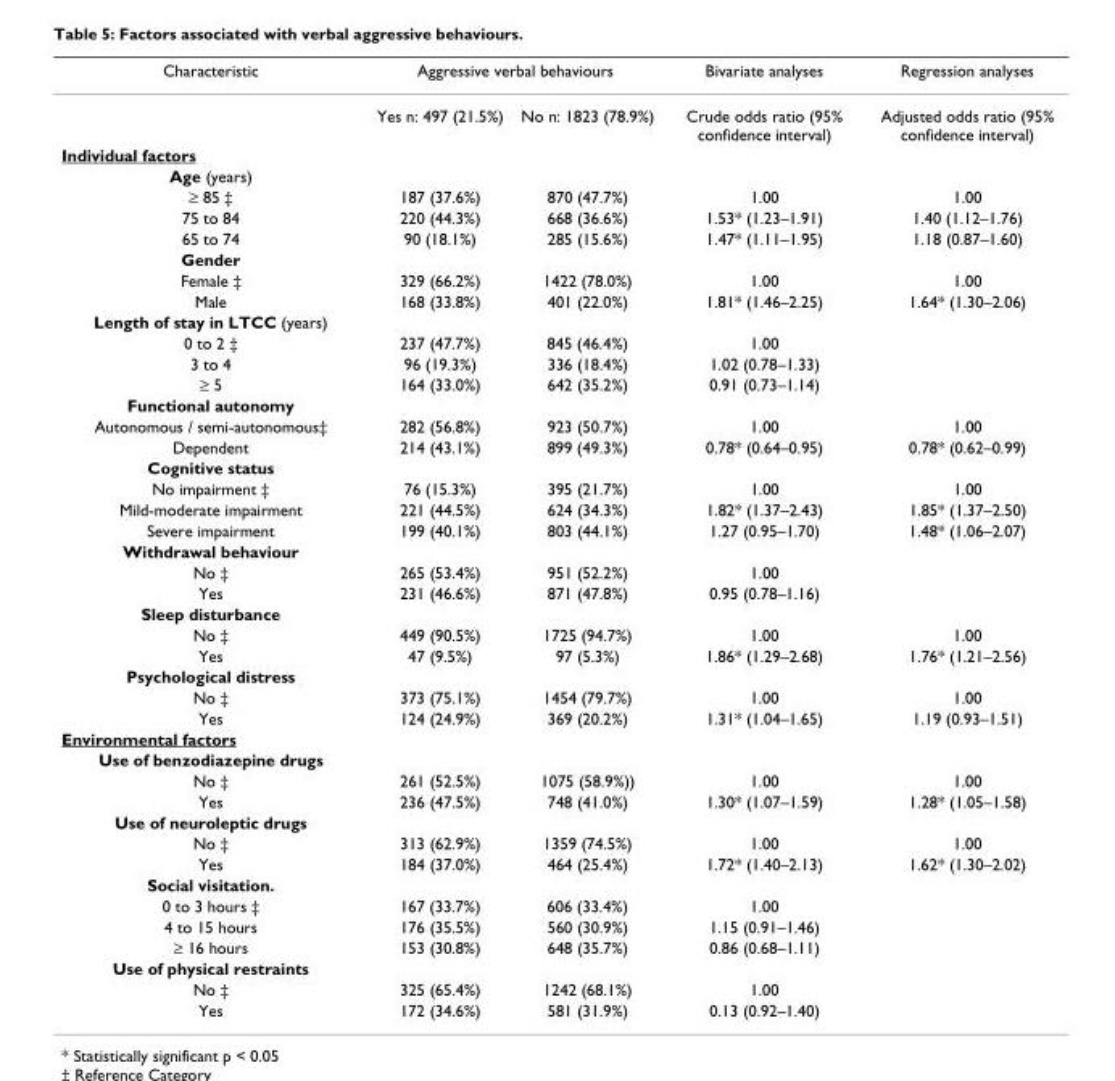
<table><thead><tr><td rowspan="2">Characteristic</td><td colspan="2">Aggressive verbal behaviours</td><td rowspan="2">Bivariate analyses Crude odds ratio (95% confidence interval)</td><td rowspan="2">Regression analyses Adjusted odds ratio (95% confidence interval)</td></tr><tr><td>Yes n: 497 (21.5%)</td><td>No n: 1823 (78.9%)</td></tr></thead><tbody><tr><td colspan="5">Individual factors</td></tr><tr><td colspan="5">Age (years)</td></tr><tr><td>≥ 85 ‡</td><td>187 (37.6%)</td><td>870 (47.7%)</td><td>1.00</td><td>1.00</td></tr><tr><td>75 to 84</td><td>220 (44.3%)</td><td>668 (36.6%)</td><td>1.53* (1.23–1.91)</td><td>1.40 (1.12–1.76)</td></tr><tr><td>65 to 74</td><td>90 (18.1%)</td><td>285 (15.6%)</td><td>1.47* (1.11–1.95)</td><td>1.18 (0.87–1.60)</td></tr><tr><td colspan="5">Gender</td></tr><tr><td>Female ‡</td><td>329 (66.2%)</td><td>1422 (78.0%)</td><td>1.00</td><td>1.00</td></tr><tr><td>Male</td><td>168 (33.8%)</td><td>401 (22.0%)</td><td>1.81* (1.46–2.25)</td><td>1.64* (1.30–2.06)</td></tr><tr><td colspan="5">Length of stay in LTCC (years)</td></tr><tr><td>0 to 2 ‡</td><td>237 (47.7%)</td><td>845 (46.4%)</td><td>1.00</td><td></td></tr><tr><td>3 to 4</td><td>96 (19.3%)</td><td>336 (18.4%)</td><td>1.02 (0.78–1.33)</td><td></td></tr><tr><td>≥ 5</td><td>164 (33.0%)</td><td>642 (35.2%)</td><td>0.91 (0.73–1.14)</td><td></td></tr><tr><td colspan="5">Functional autonomy</td></tr><tr><td>Autonomous / semi-autonomous‡</td><td>282 (56.8%)</td><td>923 (50.7%)</td><td>1.00</td><td>1.00</td></tr><tr><td>Dependent</td><td>214 (43.1%)</td><td>899 (49.3%)</td><td>0.78* (0.64–0.95)</td><td>0.78* (0.62–0.99)</td></tr><tr><td colspan="5">Cognitive status</td></tr><tr><td>No impairment ‡</td><td>76 (15.3%)</td><td>395 (21.7%)</td><td>1.00</td><td>1.00</td></tr><tr><td>Mild-moderate impairment</td><td>221 (44.5%)</td><td>624 (34.3%)</td><td>1.82* (1.37–2.43)</td><td>1.85* (1.37–2.50)</td></tr><tr><td>Severe impairment</td><td>199 (40.1%)</td><td>803 (44.1%)</td><td>1.27 (0.95–1.70)</td><td>1.48* (1.06–2.07)</td></tr><tr><td colspan="5">Withdrawal behaviour</td></tr><tr><td>No ‡</td><td>265 (53.4%)</td><td>951 (52.2%)</td><td>1.00</td><td></td></tr><tr><td>Yes</td><td>231 (46.6%)</td><td>871 (47.8%)</td><td>0.95 (0.78–1.16)</td><td></td></tr><tr><td colspan="5">Sleep disturbance</td></tr><tr><td>No ‡</td><td>449 (90.5%)</td><td>1725 (94.7%)</td><td>1.00</td><td>1.00</td></tr><tr><td>Yes</td><td>47 (9.5%)</td><td>97 (5.3%)</td><td>1.86* (1.29–2.68)</td><td>1.76* (1.21–2.56)</td></tr><tr><td colspan="5">Psychological distress</td></tr><tr><td>No ‡</td><td>373 (75.1%)</td><td>1454 (79.7%)</td><td>1.00</td><td>1.00</td></tr><tr><td>Yes</td><td>124 (24.9%)</td><td>369 (20.2%)</td><td>1.31* (1.04–1.65)</td><td>1.19 (0.93–1.51)</td></tr><tr><td colspan="5">Environmental factors</td></tr><tr><td colspan="5">Use of benzodiazepine drugs</td></tr><tr><td>No ‡</td><td>261 (52.5%)</td><td>1075 (58.9%))</td><td>1.00</td><td>1.00</td></tr><tr><td>Yes</td><td>236 (47.5%)</td><td>748 (41.0%)</td><td>1.30* (1.07–1.59)</td><td>1.28* (1.05–1.58)</td></tr><tr><td colspan="5">Use of neuroleptic drugs</td></tr><tr><td>No ‡</td><td>313 (62.9%)</td><td>1359 (74.5%)</td><td>1.00</td><td>1.00</td></tr><tr><td>Yes</td><td>184 (37.0%)</td><td>464 (25.4%)</td><td>1.72* (1.40–2.13)</td><td>1.62* (1.30–2.02)</td></tr><tr><td colspan="5">Social visitation.</td></tr><tr><td>0 to 3 hours ‡</td><td>167 (33.7%)</td><td>606 (33.4%)</td><td>1.00</td><td></td></tr><tr><td>4 to 15 hours</td><td>176 (35.5%)</td><td>560 (30.9%)</td><td>1.15 (0.91–1.46)</td><td></td></tr><tr><td>≥ 16 hours</td><td>153 (30.8%)</td><td>648 (35.7%)</td><td>0.86 (0.68–1.11)</td><td></td></tr><tr><td colspan="5">Use of physical restraints</td></tr><tr><td>No ‡</td><td>325 (65.4%)</td><td>1242 (68.1%)</td><td>1.00</td><td></td></tr><tr><td>Yes</td><td>172 (34.6%)</td><td>581 (31.9%)</td><td>0.13 (0.92–1.40)</td><td></td></tr></tbody></table>